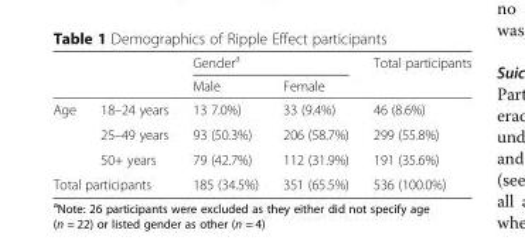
<table><thead><tr><td rowspan="2"></td><td rowspan="2"></td><td colspan="2">Gender<sup>a</sup></td><td rowspan="2">Total participants</td></tr><tr><td>Male</td><td>Female</td></tr></thead><tbody><tr><td rowspan="3">Age</td><td>18–24 years</td><td>13 7.0%)</td><td>33 (9.4%)</td><td>46 (8.6%)</td></tr><tr><td>25–49 years</td><td>93 (50.3%)</td><td>206 (58.7%)</td><td>299 (55.8%)</td></tr><tr><td>50+ years</td><td>79 (42.7%)</td><td>112 (31.9%)</td><td>191 (35.6%)</td></tr><tr><td colspan="2">Total participants</td><td>185 (34.5%)</td><td>351 (65.5%)</td><td>536 (100.0%)</td></tr></tbody></table>